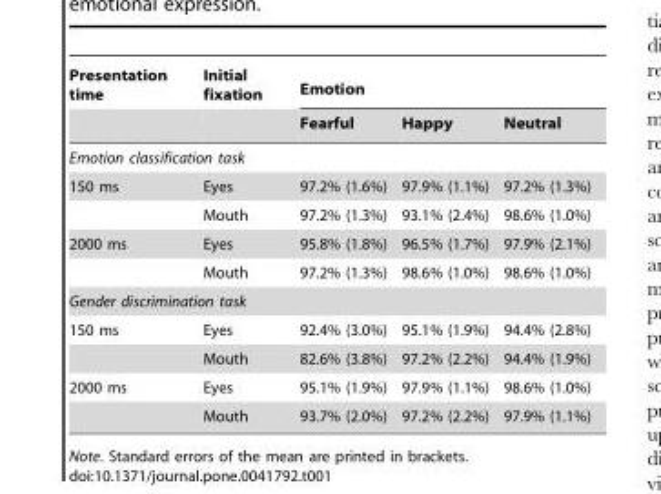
<table><thead><tr><td rowspan="2">Presentation time</td><td rowspan="2">Initial fixation</td><td colspan="3">Emotion</td></tr><tr><td>Fearful</td><td>Happy</td><td>Neutral</td></tr></thead><tbody><tr><td colspan="5">Emotion classification task</td></tr><tr><td rowspan="2">150 ms</td><td>Eyes</td><td>97.2% (1.6%)</td><td>97.9% (1.1%)</td><td>97.2% (1.3%)</td></tr><tr><td>Mouth</td><td>97.2% (1.3%)</td><td>93.1% (2.4%)</td><td>98.6% (1.0%)</td></tr><tr><td rowspan="2">2000 ms</td><td>Eyes</td><td>95.8% (1.8%)</td><td>96.5% (1.7%)</td><td>97.9% (2.1%)</td></tr><tr><td>Mouth</td><td>97.2% (1.3%)</td><td>98.6% (1.0%)</td><td>98.6% (1.0%)</td></tr><tr><td colspan="5">Gender discrimination task</td></tr><tr><td rowspan="2">150 ms</td><td>Eyes</td><td>92.4% (3.0%)</td><td>95.1% (1.9%)</td><td>94.4% (2.8%)</td></tr><tr><td>Mouth</td><td>82.6% (3.8%)</td><td>97.2% (2.2%)</td><td>94.4% (1.9%)</td></tr><tr><td rowspan="2">2000 ms</td><td>Eyes</td><td>95.1% (1.9%)</td><td>97.9% (1.1%)</td><td>98.6% (1.0%)</td></tr><tr><td>Mouth</td><td>93.7% (2.0%)</td><td>97.2% (2.2%)</td><td>97.9% (1.1%)</td></tr></tbody></table>